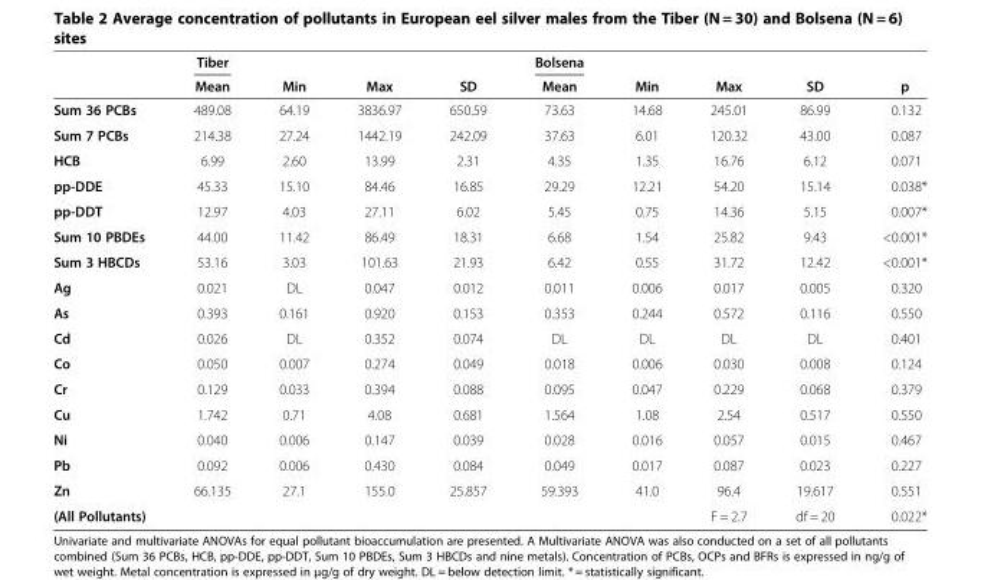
<table><thead><tr><td rowspan="2"></td><td rowspan="2">Tiber Mean</td><td rowspan="2">Min</td><td rowspan="2">Max</td><td rowspan="2">SD</td><td rowspan="2">Bolsena Mean</td><td rowspan="2">Min</td><td rowspan="2">Max</td><td rowspan="2">SD</td><td rowspan="2">p</td></tr><tr></tr></thead><tbody><tr><td>Sum 36 PCBs</td><td>489.08</td><td>64.19</td><td>3836.97</td><td>650.59</td><td>73.63</td><td>14.68</td><td>245.01</td><td>86.99</td><td>0.132</td></tr><tr><td>Sum 7 PCBs</td><td>214.38</td><td>27.24</td><td>1442.19</td><td>242.09</td><td>37.63</td><td>6.01</td><td>120.32</td><td>43.00</td><td>0.087</td></tr><tr><td>HCB</td><td>6.99</td><td>2.60</td><td>13.99</td><td>2.31</td><td>4.35</td><td>1.35</td><td>16.76</td><td>6.12</td><td>0.071</td></tr><tr><td>pp-DDE</td><td>45.33</td><td>15.10</td><td>84.46</td><td>16.85</td><td>29.29</td><td>12.21</td><td>54.20</td><td>15.14</td><td>0.038*</td></tr><tr><td>pp-DDT</td><td>12.97</td><td>4.03</td><td>27.11</td><td>6.02</td><td>5.45</td><td>0.75</td><td>14.36</td><td>5.15</td><td>0.007*</td></tr><tr><td>Sum 10 PBDEs</td><td>44.00</td><td>11.42</td><td>86.49</td><td>18.31</td><td>6.68</td><td>1.54</td><td>25.82</td><td>9.43</td><td>&lt;0.001*</td></tr><tr><td>Sum 3 HBCDs</td><td>53.16</td><td>3.03</td><td>101.63</td><td>21.93</td><td>6.42</td><td>0.55</td><td>31.72</td><td>12.42</td><td>&lt;0.001*</td></tr><tr><td>Ag</td><td>0.021</td><td>DL</td><td>0.047</td><td>0.012</td><td>0.011</td><td>0.006</td><td>0.017</td><td>0.005</td><td>0.320</td></tr><tr><td>As</td><td>0.393</td><td>0.161</td><td>0.920</td><td>0.153</td><td>0.353</td><td>0.244</td><td>0.572</td><td>0.116</td><td>0.550</td></tr><tr><td>Cd</td><td>0.026</td><td>DL</td><td>0.352</td><td>0.074</td><td>DL</td><td>DL</td><td>DL</td><td>DL</td><td>0.401</td></tr><tr><td>Co</td><td>0.050</td><td>0.007</td><td>0.274</td><td>0.049</td><td>0.018</td><td>0.006</td><td>0.030</td><td>0.008</td><td>0.124</td></tr><tr><td>Cr</td><td>0.129</td><td>0.033</td><td>0.394</td><td>0.088</td><td>0.095</td><td>0.047</td><td>0.229</td><td>0.068</td><td>0.379</td></tr><tr><td>Cu</td><td>1.742</td><td>0.71</td><td>4.08</td><td>0.681</td><td>1.564</td><td>1.08</td><td>2.54</td><td>0.517</td><td>0.550</td></tr><tr><td>Ni</td><td>0.040</td><td>0.006</td><td>0.147</td><td>0.039</td><td>0.028</td><td>0.016</td><td>0.057</td><td>0.015</td><td>0.467</td></tr><tr><td>Pb</td><td>0.092</td><td>0.006</td><td>0.430</td><td>0.084</td><td>0.049</td><td>0.017</td><td>0.087</td><td>0.023</td><td>0.227</td></tr><tr><td>Zn</td><td>66.135</td><td>27.1</td><td>155.0</td><td>25.857</td><td>59.393</td><td>41.0</td><td>96.4</td><td>19.617</td><td>0.551</td></tr><tr><td>(All Pollutants)</td><td></td><td></td><td></td><td></td><td></td><td></td><td>F = 2.7</td><td>df = 20</td><td>0.022*</td></tr></tbody></table>